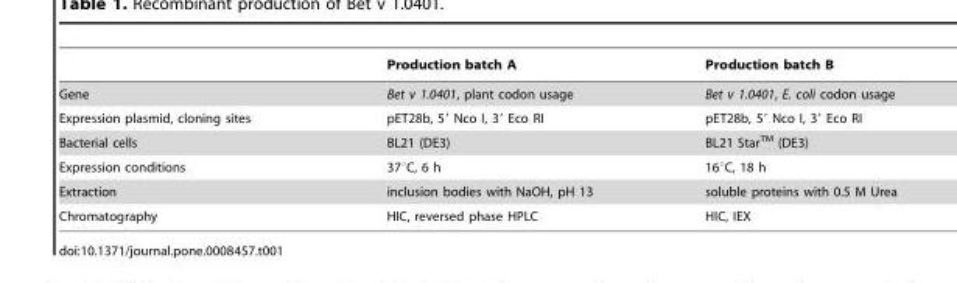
<table><thead><tr><td></td><td>Production batch A</td><td>Production batch B</td></tr></thead><tbody><tr><td>Gene</td><td>Bet v 1.0401, plant codon usage</td><td>Bet v 1.0401, E. coli codon usage</td></tr><tr><td>Expression plasmid, cloning sites</td><td>pET28b, 5′ Nco I, 3′ Eco RI</td><td>pET28b, 5′ Nco I, 3′ Eco RI</td></tr><tr><td>Bacterial cells</td><td>BL21 (DE3)</td><td>BL21 StarTM (DE3)</td></tr><tr><td>Expression conditions</td><td>37°C, 6 h</td><td>16°C, 18 h</td></tr><tr><td>Extraction</td><td>inclusion bodies with NaOH, pH 13</td><td>soluble proteins with 0.5 M Urea</td></tr><tr><td>Chromatography</td><td>HIC, reversed phase HPLC</td><td>HIC, IEX</td></tr></tbody></table>